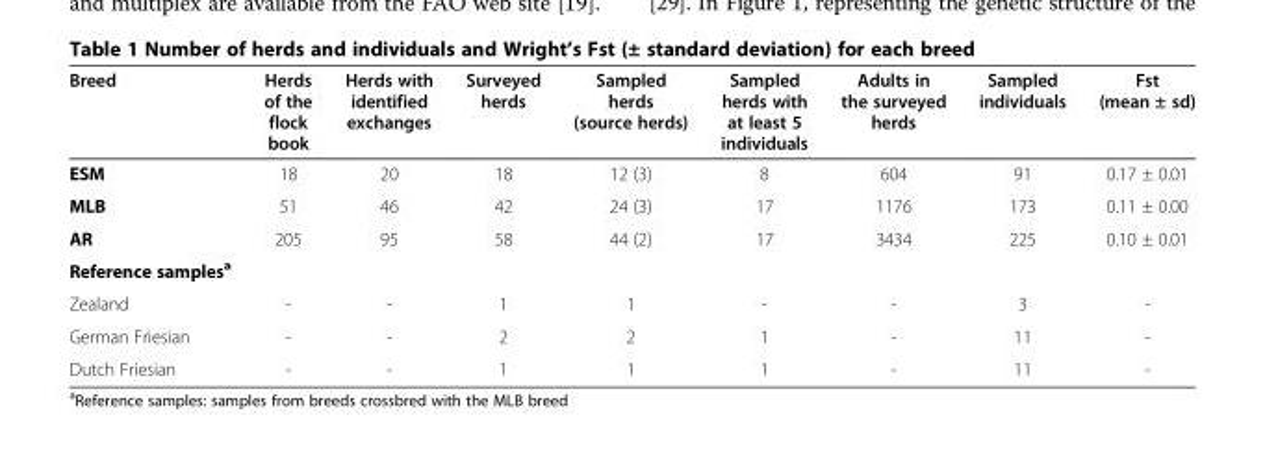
<table><thead><tr><td>Breed</td><td>Herds of the flock book</td><td>Herds with identified exchanges</td><td>Surveyed herds</td><td>Sampled herds (source herds)</td><td>Sampled herds with at least 5 individuals</td><td>Adults in the surveyed herds</td><td>Sampled individuals</td><td>Fst (mean ± sd)</td></tr></thead><tbody><tr><td>ESM</td><td>18</td><td>20</td><td>18</td><td>12 (3)</td><td>8</td><td>604</td><td>91</td><td>0.17 ± 0.01</td></tr><tr><td>MLB</td><td>51</td><td>46</td><td>42</td><td>24 (3)</td><td>17</td><td>1176</td><td>173</td><td>0.11 ± 0.00</td></tr><tr><td>AR</td><td>205</td><td>95</td><td>58</td><td>44 (2)</td><td>17</td><td>3434</td><td>225</td><td>0.10 ± 0.01</td></tr><tr><td colspan="9">Reference samples<sup>a</sup></td></tr><tr><td>Zealand</td><td>-</td><td>-</td><td>1</td><td>1</td><td>-</td><td>-</td><td>3</td><td>-</td></tr><tr><td>German Friesian</td><td>-</td><td>-</td><td>2</td><td>2</td><td>1</td><td>-</td><td>11</td><td>-</td></tr><tr><td>Dutch Friesian</td><td>-</td><td>-</td><td>1</td><td>1</td><td>1</td><td>-</td><td>11</td><td>-</td></tr></tbody></table>